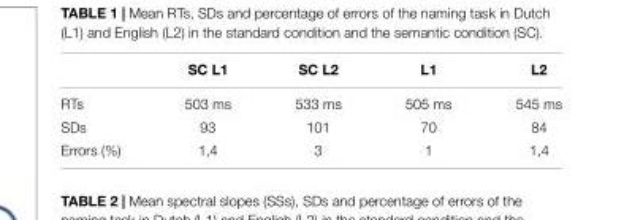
<table><thead><tr><td></td><td>SC L1</td><td>SC L2</td><td>L1</td><td>L2</td></tr></thead><tbody><tr><td>RTs</td><td>503 ms</td><td>533 ms</td><td>505 ms</td><td>545 ms</td></tr><tr><td>SDs</td><td>93</td><td>101</td><td>70</td><td>84</td></tr><tr><td>Errors (%)</td><td>1,4</td><td>3</td><td>1</td><td>1,4</td></tr></tbody></table>